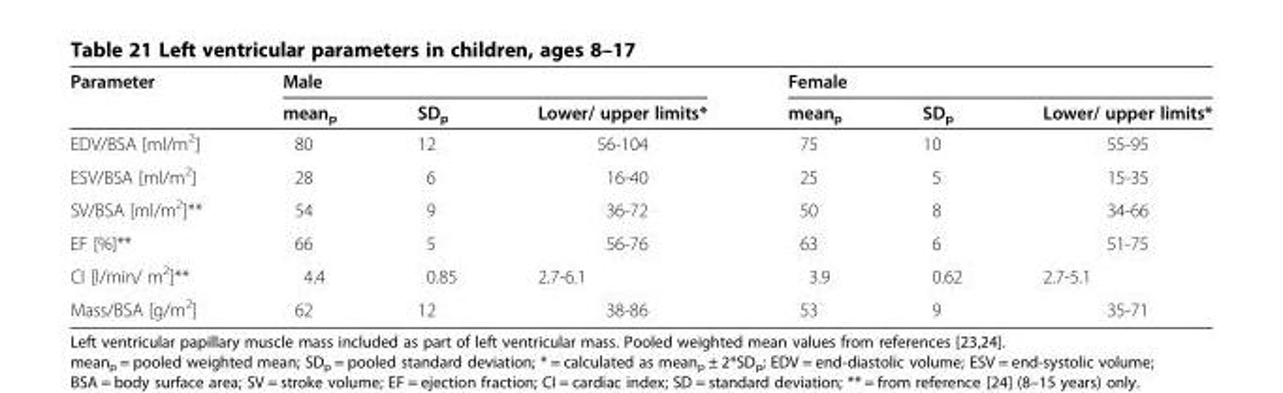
<table><thead><tr><td rowspan="2">Parameter</td><td colspan="3">Male</td><td colspan="3">Female</td></tr><tr><td>mean<sub>p</sub></td><td>SD<sub>p</sub></td><td>Lower/ upper limits*</td><td>mean<sub>p</sub></td><td>SD<sub>p</sub></td><td>Lower/ upper limits*</td></tr></thead><tbody><tr><td>EDV/BSA [ml/m<sup>2</sup>]</td><td>80</td><td>12</td><td>56-104</td><td>75</td><td>10</td><td>55-95</td></tr><tr><td>ESV/BSA [ml/m<sup>2</sup>]</td><td>28</td><td>6</td><td>16-40</td><td>25</td><td>5</td><td>15-35</td></tr><tr><td>SV/BSA [ml/m<sup>2</sup>]**</td><td>54</td><td>9</td><td>36-72</td><td>50</td><td>8</td><td>34-66</td></tr><tr><td>EF [%]**</td><td>66</td><td>5</td><td>56-76</td><td>63</td><td>6</td><td>51-75</td></tr><tr><td>CI [l/min/ m<sup>2</sup>]**</td><td>4.4</td><td>0.85</td><td>2.7-6.1</td><td>3.9</td><td>0.62</td><td>2.7-5.1</td></tr><tr><td>Mass/BSA [g/m<sup>2</sup>]</td><td>62</td><td>12</td><td>38-86</td><td>53</td><td>9</td><td>35-71</td></tr></tbody></table>